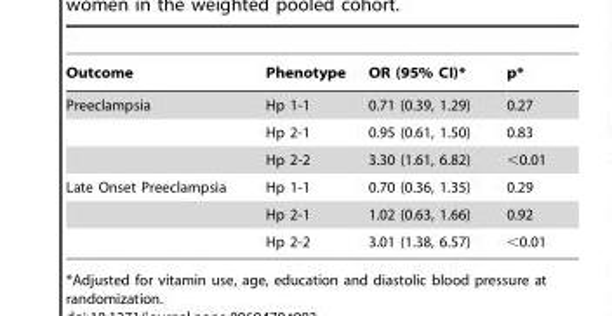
<table><thead><tr><td>Outcome</td><td>Phenotype</td><td>OR (95% CI)*</td><td>p*</td></tr></thead><tbody><tr><td rowspan="3">Preeclampsia</td><td>Hp 1-1</td><td>0.71 (0.39, 1.29)</td><td>0.27</td></tr><tr><td>Hp 2-1</td><td>0.95 (0.61, 1.50)</td><td>0.83</td></tr><tr><td>Hp 2-2</td><td>3.30 (1.61, 6.82)</td><td>&lt;0.01</td></tr><tr><td rowspan="3">Late Onset Preeclampsia</td><td>Hp 1-1</td><td>0.70 (0.36, 1.35)</td><td>0.29</td></tr><tr><td>Hp 2-1</td><td>1.02 (0.63, 1.66)</td><td>0.92</td></tr><tr><td>Hp 2-2</td><td>3.01 (1.38, 6.57)</td><td>&lt;0.01</td></tr></tbody></table>